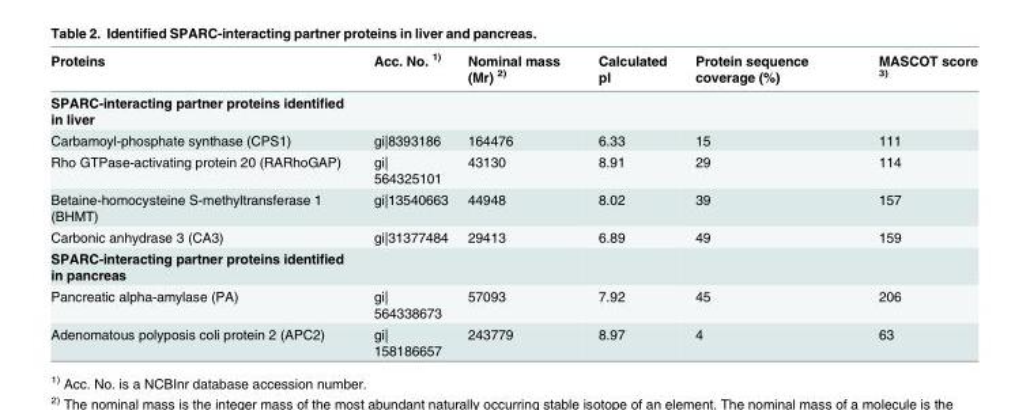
<table><thead><tr><td>Proteins</td><td>Acc. No. <sup>1)</sup></td><td>Nominal mass (Mr) <sup>2)</sup></td><td>Calculated pI</td><td>Protein sequence coverage (%)</td><td>MASCOT score <sup>3)</sup></td></tr></thead><tbody><tr><td colspan="6">SPARC-interacting partner proteins identified in liver</td></tr><tr><td>Carbamoyl-phosphate synthase (CPS1)</td><td>gi|8393186</td><td>164476</td><td>6.33</td><td>15</td><td>111</td></tr><tr><td>Rho GTPase-activating protein 20 (RARhoGAP)</td><td>gi| 564325101</td><td>43130</td><td>8.91</td><td>29</td><td>114</td></tr><tr><td>Betaine-homocysteine S-methyltransferase 1 (BHMT)</td><td>gi|13540663</td><td>44948</td><td>8.02</td><td>39</td><td>157</td></tr><tr><td>Carbonic anhydrase 3 (CA3)</td><td>gi|31377484</td><td>29413</td><td>6.89</td><td>49</td><td>159</td></tr><tr><td colspan="6">SPARC-interacting partner proteins identified in pancreas</td></tr><tr><td>Pancreatic alpha-amylase (PA)</td><td>gi| 564338673</td><td>57093</td><td>7.92</td><td>45</td><td>206</td></tr><tr><td>Adenomatous polyposis coli protein 2 (APC2)</td><td>gi| 158186657</td><td>243779</td><td>8.97</td><td>4</td><td>63</td></tr></tbody></table>